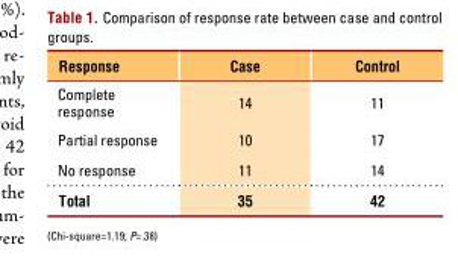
<table><thead><tr><td>Response</td><td>Case</td><td>Control</td></tr></thead><tbody><tr><td>Complete response</td><td>14</td><td>11</td></tr><tr><td>Partial response</td><td>10</td><td>17</td></tr><tr><td>No response</td><td>11</td><td>14</td></tr><tr><td>Total</td><td>35</td><td>42</td></tr></tbody></table>